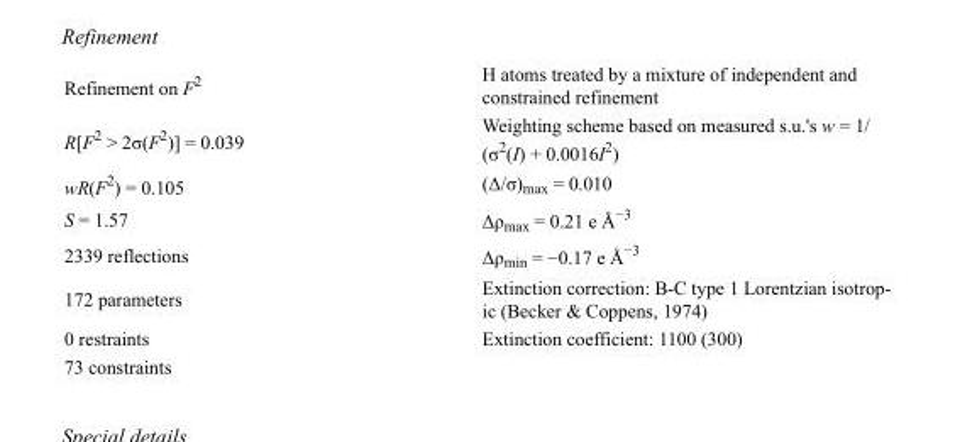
<table><tbody><tr><td>Refinement on F<sup>2</sup></td><td>H atoms treated by a mixture of independent and constrained refinement</td></tr><tr><td>R[F<sup>2</sup> &gt; 2σ(F<sup>2</sup>)] = 0.039</td><td>Weighting scheme based on measured s.u.&#x27;s w = 1/ (σ<sup>2</sup>(I) + 0.0016I<sup>2</sup>)</td></tr><tr><td>wR(F<sup>2</sup>) = 0.105</td><td>(Δ/σ)<sub>max</sub> = 0.010</td></tr><tr><td>S = 1.57</td><td>Δρ<sub>max</sub> = 0.21 e Å<sup>−3</sup></td></tr><tr><td>2339 reflections</td><td>Δρ<sub>min</sub> = −0.17 e Å<sup>−3</sup></td></tr><tr><td>172 parameters</td><td>Extinction correction: B-C type 1 Lorentzian isotrop- ic (Becker &amp; Coppens, 1974)</td></tr><tr><td>0 restraints</td><td>Extinction coefficient: 1100 (300)</td></tr><tr><td>73 constraints</td><td></td></tr></tbody></table>